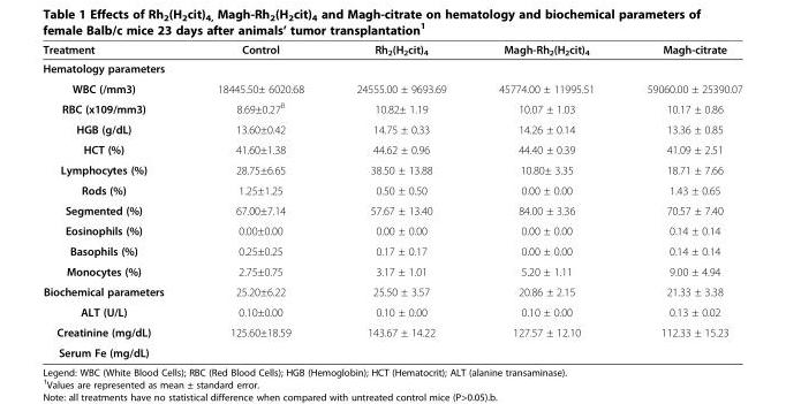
<table><thead><tr><td>Treatment</td><td>Control</td><td>Rh<sub>2</sub>(H<sub>2</sub>cit)<sub>4</sub></td><td>Magh-Rh<sub>2</sub>(H<sub>2</sub>cit)<sub>4</sub></td><td>Magh-citrate</td></tr></thead><tbody><tr><td colspan="5">Hematology parameters</td></tr><tr><td>WBC (/mm3)</td><td>18445.50± 6020.68</td><td>24555.00 ± 9693.69</td><td>45774.00 ± 11995.51</td><td>59060.00 ± 25390.07</td></tr><tr><td>RBC (x109/mm3)</td><td>8.69±0.27<sup>B</sup></td><td>10.82± 1.19</td><td>10.07 ± 1.03</td><td>10.17 ± 0.86</td></tr><tr><td>HGB (g/dL)</td><td>13.60±0.42</td><td>14.75 ± 0.33</td><td>14.26 ± 0.14</td><td>13.36 ± 0.85</td></tr><tr><td>HCT (%)</td><td>41.60±1.38</td><td>44.62 ± 0.96</td><td>44.40 ± 0.39</td><td>41.09 ± 2.51</td></tr><tr><td>Lymphocytes (%)</td><td>28.75±6.65</td><td>38.50 ± 13.88</td><td>10.80± 3.35</td><td>18.71 ± 7.66</td></tr><tr><td>Rods (%)</td><td>1.25±1.25</td><td>0.50 ± 0.50</td><td>0.00 ± 0.00</td><td>1.43 ± 0.65</td></tr><tr><td>Segmented (%)</td><td>67.00±7.14</td><td>57.67 ± 13.40</td><td>84.00 ± 3.36</td><td>70.57 ± 7.40</td></tr><tr><td>Eosinophils (%)</td><td>0.00±0.00</td><td>0.00 ± 0.00</td><td>0.00 ± 0.00</td><td>0.14 ± 0.14</td></tr><tr><td>Basophils (%)</td><td>0.25±0.25</td><td>0.17 ± 0.17</td><td>0.00 ± 0.00</td><td>0.14 ± 0.14</td></tr><tr><td>Monocytes (%)</td><td>2.75±0.75</td><td>3.17 ± 1.01</td><td>5.20 ± 1.11</td><td>9.00 ± 4.94</td></tr><tr><td>Biochemical parameters</td><td>25.20±6.22</td><td>25.50 ± 3.57</td><td>20.86 ± 2.15</td><td>21.33 ± 3.38</td></tr><tr><td>ALT (U/L)</td><td>0.10±0.00</td><td>0.10 ± 0.00</td><td>0.10 ± 0.00</td><td>0.13 ± 0.02</td></tr><tr><td>Creatinine (mg/dL)</td><td>125.60±18.59</td><td>143.67 ± 14.22</td><td>127.57 ± 12.10</td><td>112.33 ± 15.23</td></tr><tr><td>Serum Fe (mg/dL)</td><td></td><td></td><td></td><td></td></tr></tbody></table>